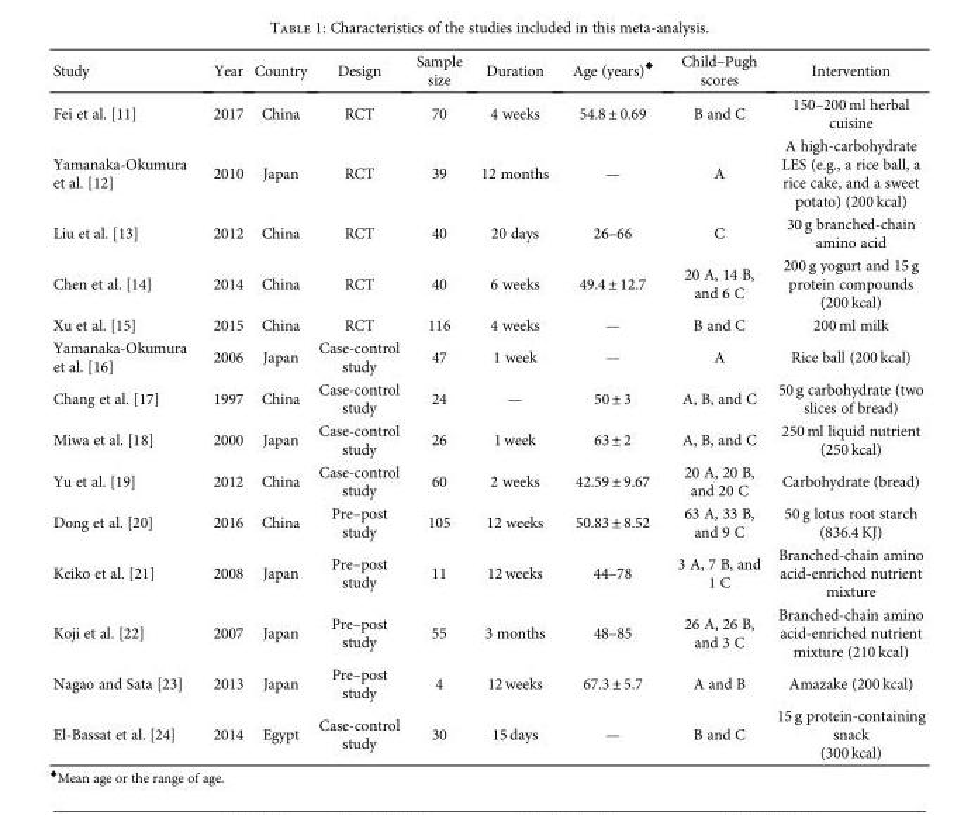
<table><thead><tr><td>Study</td><td>Year</td><td>Country</td><td>Design</td><td>Sample size</td><td>Duration</td><td>Age (years)<sup>♦</sup></td><td>Child–Pugh scores</td><td>Intervention</td></tr></thead><tbody><tr><td>Fei et al. [11]</td><td>2017</td><td>China</td><td>RCT</td><td>70</td><td>4 weeks</td><td>54.8 ± 0.69</td><td>B and C</td><td>150–200 ml herbal cuisine</td></tr><tr><td>Yamanaka-Okumura et al. [12]</td><td>2010</td><td>Japan</td><td>RCT</td><td>39</td><td>12 months</td><td>—</td><td>A</td><td>A high-carbohydrate LES (e.g., a rice ball, a rice cake, and a sweet potato) (200 kcal)</td></tr><tr><td>Liu et al. [13]</td><td>2012</td><td>China</td><td>RCT</td><td>40</td><td>20 days</td><td>26–66</td><td>C</td><td>30 g branched-chain amino acid</td></tr><tr><td>Chen et al. [14]</td><td>2014</td><td>China</td><td>RCT</td><td>40</td><td>6 weeks</td><td>49.4 ± 12.7</td><td>20 A, 14 B, and 6 C</td><td>200 g yogurt and 15 g protein compounds (200 kcal)</td></tr><tr><td>Xu et al. [15]</td><td>2015</td><td>China</td><td>RCT</td><td>116</td><td>4 weeks</td><td>—</td><td>B and C</td><td>200 ml milk</td></tr><tr><td>Yamanaka-Okumura et al. [16]</td><td>2006</td><td>Japan</td><td>Case-control study</td><td>47</td><td>1 week</td><td>—</td><td>A</td><td>Rice ball (200 kcal)</td></tr><tr><td>Chang et al. [17]</td><td>1997</td><td>China</td><td>Case-control study</td><td>24</td><td>—</td><td>50 ± 3</td><td>A, B, and C</td><td>50 g carbohydrate (two slices of bread)</td></tr><tr><td>Miwa et al. [18]</td><td>2000</td><td>Japan</td><td>Case-control study</td><td>26</td><td>1 week</td><td>63 ± 2</td><td>A, B, and C</td><td>250 ml liquid nutrient (250 kcal)</td></tr><tr><td>Yu et al. [19]</td><td>2012</td><td>China</td><td>Case-control study</td><td>60</td><td>2 weeks</td><td>42.59 ± 9.67</td><td>20 A, 20 B, and 20 C</td><td>Carbohydrate (bread)</td></tr><tr><td>Dong et al. [20]</td><td>2016</td><td>China</td><td>Pre–post study</td><td>105</td><td>12 weeks</td><td>50.83 ± 8.52</td><td>63 A, 33 B, and 9 C</td><td>50 g lotus root starch (836.4 KJ)</td></tr><tr><td>Keiko et al. [21]</td><td>2008</td><td>Japan</td><td>Pre–post study</td><td>11</td><td>12 weeks</td><td>44–78</td><td>3 A, 7 B, and 1 C</td><td>Branched-chain amino acid-enriched nutrient mixture</td></tr><tr><td>Koji et al. [22]</td><td>2007</td><td>Japan</td><td>Pre–post study</td><td>55</td><td>3 months</td><td>48–85</td><td>26 A, 26 B, and 3 C</td><td>Branched-chain amino acid-enriched nutrient mixture (210 kcal)</td></tr><tr><td>Nagao and Sata [23]</td><td>2013</td><td>Japan</td><td>Pre–post study</td><td>4</td><td>12 weeks</td><td>67.3 ± 5.7</td><td>A and B</td><td>Amazake (200 kcal)</td></tr><tr><td>El-Bassat et al. [24]</td><td>2014</td><td>Egypt</td><td>Case-control study</td><td>30</td><td>15 days</td><td>—</td><td>B and C</td><td>15 g protein-containing snack (300 kcal)</td></tr></tbody></table>